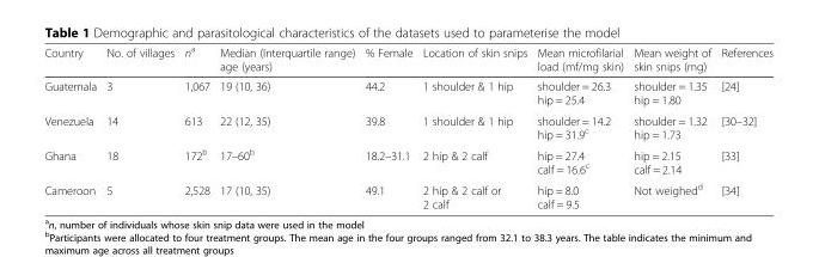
<table><thead><tr><td>Country</td><td>No. of villages</td><td>n<sup>a</sup></td><td>Median (Interquartile range) age (years)</td><td>% Female</td><td>Location of skin snips</td><td>Mean microfilarial load (mf/mg skin)</td><td>Mean weight of skin snips (mg)</td><td>References</td></tr></thead><tbody><tr><td>Guatemala</td><td>3</td><td>1,067</td><td>19 (10, 36)</td><td>44.2</td><td>1 shoulder &amp; 1 hip</td><td>shoulder = 26.3 hip = 25.4</td><td>shoulder = 1.35 hip = 1.80</td><td>[24]</td></tr><tr><td>Venezuela</td><td>14</td><td>613</td><td>22 (12, 35)</td><td>39.8</td><td>1 shoulder &amp; 1 hip</td><td>shoulder = 14.2 hip = 31.9<sup>c</sup></td><td>shoulder = 1.32 hip = 1.73</td><td>[30–32]</td></tr><tr><td>Ghana</td><td>18</td><td>172<sup>b</sup></td><td>17–60<sup>b</sup></td><td>18.2–31.1</td><td>2 hip &amp; 2 calf</td><td>hip = 27.4 calf = 16.6<sup>c</sup></td><td>hip = 2.15 calf = 2.14</td><td>[33]</td></tr><tr><td>Cameroon</td><td>5</td><td>2,528</td><td>17 (10, 35)</td><td>49.1</td><td>2 hip &amp; 2 calf or 2 calf</td><td>hip = 8.0 calf = 9.5</td><td>Not weighed<sup>d</sup></td><td>[34]</td></tr></tbody></table>